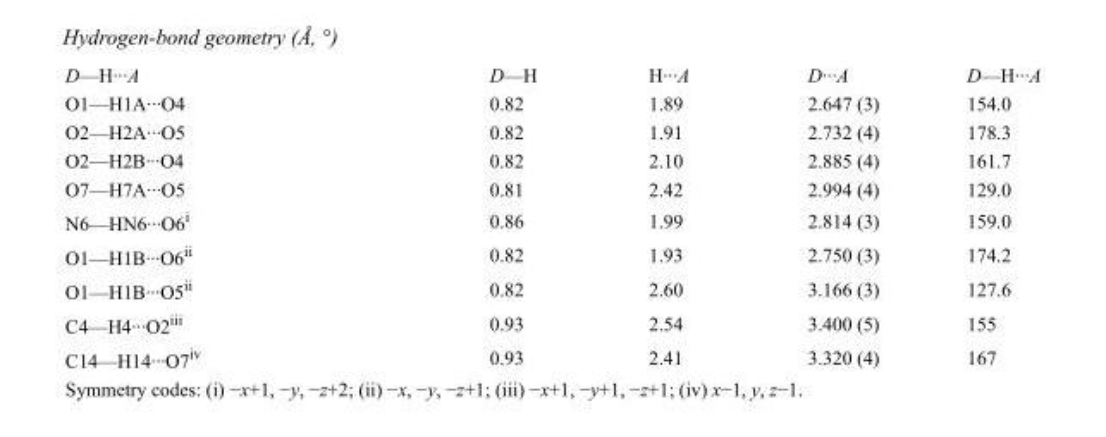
<table><tbody><tr><td>D—H···A</td><td>D—H</td><td>H···A</td><td>D···A</td><td>D—H···A</td></tr><tr><td>O1—H1A···O4</td><td>0.82</td><td>1.89</td><td>2.647 (3)</td><td>154.0</td></tr><tr><td>O2—H2A···O5</td><td>0.82</td><td>1.91</td><td>2.732 (4)</td><td>178.3</td></tr><tr><td>O2—H2B···O4</td><td>0.82</td><td>2.10</td><td>2.885 (4)</td><td>161.7</td></tr><tr><td>O7—H7A···O5</td><td>0.81</td><td>2.42</td><td>2.994 (4)</td><td>129.0</td></tr><tr><td>N6—HN6···O6<sup>i</sup></td><td>0.86</td><td>1.99</td><td>2.814 (3)</td><td>159.0</td></tr><tr><td>O1—H1B···O6<sup>ii</sup></td><td>0.82</td><td>1.93</td><td>2.750 (3)</td><td>174.2</td></tr><tr><td>O1—H1B···O5<sup>ii</sup></td><td>0.82</td><td>2.60</td><td>3.166 (3)</td><td>127.6</td></tr><tr><td>C4—H4···O2<sup>iii</sup></td><td>0.93</td><td>2.54</td><td>3.400 (5)</td><td>155</td></tr><tr><td>C14—H14···O7<sup>iv</sup></td><td>0.93</td><td>2.41</td><td>3.320 (4)</td><td>167</td></tr></tbody></table>